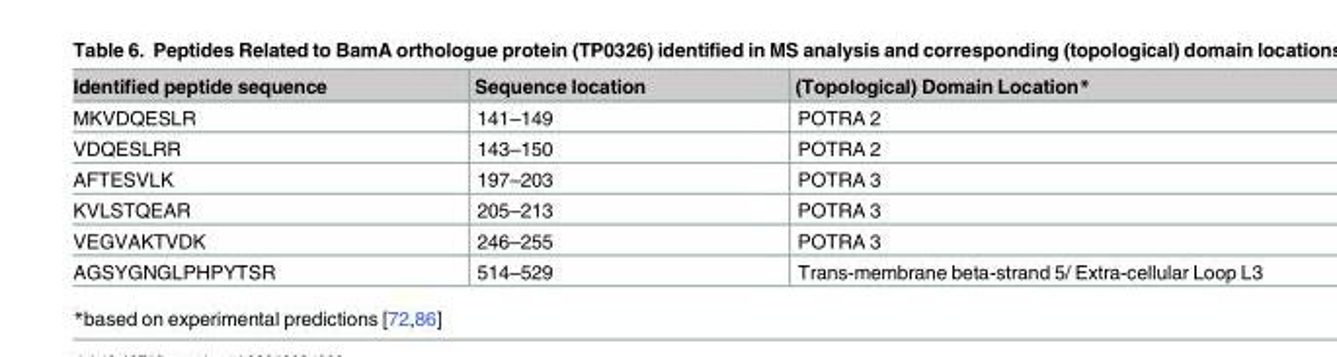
<table><thead><tr><td>Identified peptide sequence</td><td>Sequence location</td><td>(Topological) Domain Location*</td></tr></thead><tbody><tr><td>MKVDQESLR</td><td>141–149</td><td>POTRA 2</td></tr><tr><td>VDQESLRR</td><td>143–150</td><td>POTRA 2</td></tr><tr><td>AFTESVLK</td><td>197–203</td><td>POTRA 3</td></tr><tr><td>KVLSTQEAR</td><td>205–213</td><td>POTRA 3</td></tr><tr><td>VEGVAKTVDK</td><td>246–255</td><td>POTRA 3</td></tr><tr><td>AGSYGNGLPHPYTSR</td><td>514–529</td><td>Trans-membrane beta-strand 5/ Extra-cellular Loop L3</td></tr></tbody></table>